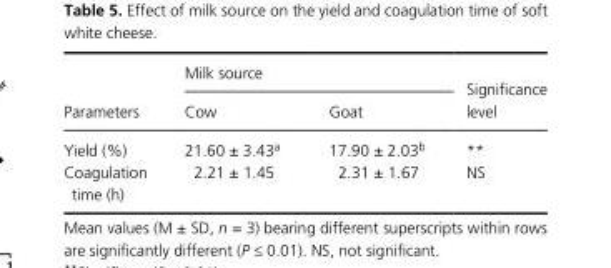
<table><thead><tr><td rowspan="2">Parameters</td><td colspan="2">Milk source</td><td rowspan="2">Significance level</td></tr><tr><td>Cow</td><td>Goat</td></tr></thead><tbody><tr><td>Yield (%)</td><td>21.60 ± 3.43<sup>a</sup></td><td>17.90 ± 2.03<sup>b</sup></td><td>**</td></tr><tr><td>Coagulation time (h)</td><td>2.21 ± 1.45</td><td>2.31 ± 1.67</td><td>NS</td></tr></tbody></table>